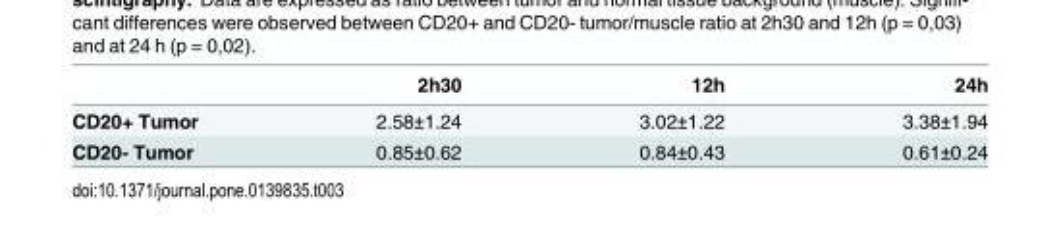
<table><thead><tr><td></td><td>2h30</td><td>12h</td><td>24h</td></tr></thead><tbody><tr><td>CD20+ Tumor</td><td>2.58±1.24</td><td>3.02±1.22</td><td>3.38±1.94</td></tr><tr><td>CD20- Tumor</td><td>0.85±0.62</td><td>0.84±0.43</td><td>0.61±0.24</td></tr></tbody></table>